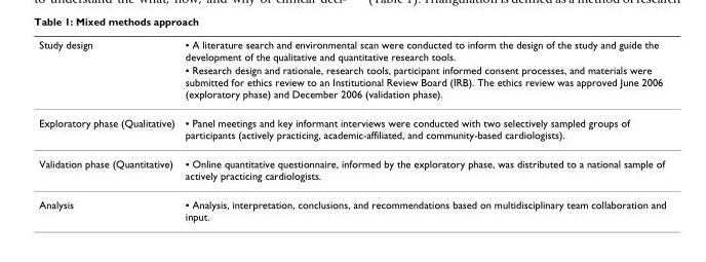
<table><thead><tr><td rowspan="2">Study design</td><td rowspan="2">▪ A literature search and environmental scan were conducted to inform the design of the study and guide the development of the qualitative and quantitative research tools. ▪ Research design and rationale, research tools, participant informed consent processes, and materials were submitted for ethics review to an Institutional Review Board (IRB). The ethics review was approved June 2006 (exploratory phase) and December 2006 (validation phase).</td></tr><tr></tr></thead><tbody><tr><td>Exploratory phase (Qualitative)</td><td>▪ Panel meetings and key informant interviews were conducted with two selectively sampled groups of participants (actively practicing, academic-affiliated, and community-based cardiologists).</td></tr><tr><td>Validation phase (Quantitative)</td><td>▪ Online quantitative questionnaire, informed by the exploratory phase, was distributed to a national sample of actively practicing cardiologists.</td></tr><tr><td>Analysis</td><td>▪ Analysis, interpretation, conclusions, and recommendations based on multidisciplinary team collaboration and input.</td></tr></tbody></table>